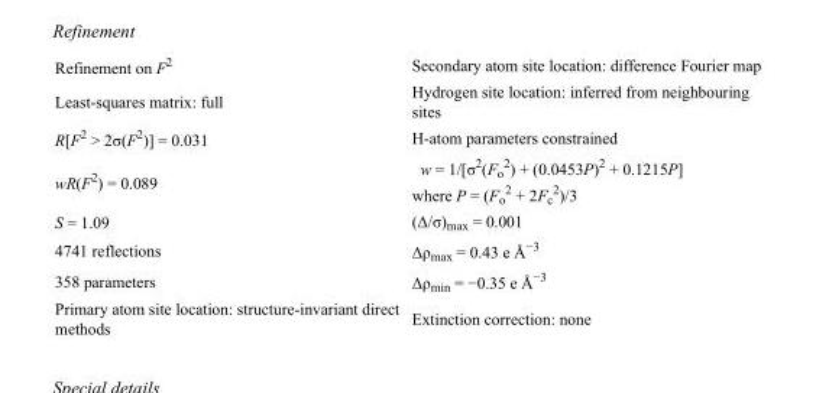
<table><tbody><tr><td>Refinement on F<sup>2</sup></td><td>Secondary atom site location: difference Fourier map</td></tr><tr><td>Least-squares matrix: full</td><td>Hydrogen site location: inferred from neighbouring sites</td></tr><tr><td>R[F<sup>2</sup> &gt; 2σ(F<sup>2</sup>)] = 0.031</td><td>H-atom parameters constrained</td></tr><tr><td>wR(F<sup>2</sup>) = 0.089</td><td>w = 1/[σ<sup>2</sup>(F<sub>o</sub> <sup>2</sup>) + (0.0453P)<sup>2</sup> + 0.1215P] where P = (F<sub>o</sub> <sup>2</sup> + 2F<sub>c</sub> <sup>2</sup>)/3</td></tr><tr><td>S = 1.09</td><td>(Δ/σ)<sub>max</sub> = 0.001</td></tr><tr><td>4741 reflections</td><td>Δρ<sub>max</sub> = 0.43 e Å<sup>−3</sup></td></tr><tr><td>358 parameters</td><td>Δρ<sub>min</sub> = −0.35 e Å<sup>−3</sup></td></tr><tr><td>Primary atom site location: structure-invariant direct methods</td><td>Extinction correction: none</td></tr></tbody></table>